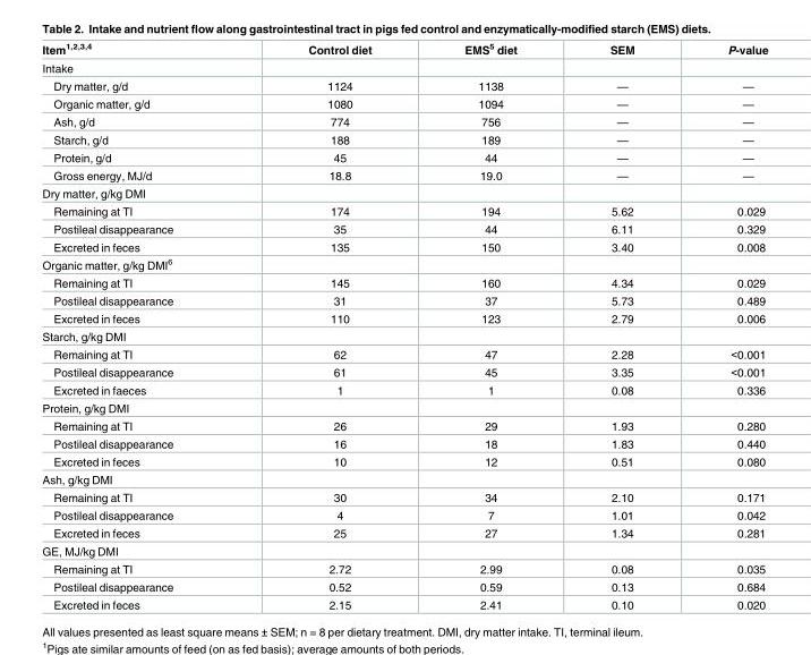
<table><thead><tr><td>Item<sup>1,2,3,4</sup></td><td>Control diet</td><td>EMS<sup>5</sup> diet</td><td>SEM</td><td>P-value</td></tr></thead><tbody><tr><td colspan="5">Intake</td></tr><tr><td>Dry matter, g/d</td><td>1124</td><td>1138</td><td>—</td><td>—</td></tr><tr><td>Organic matter, g/d</td><td>1080</td><td>1094</td><td>—</td><td>—</td></tr><tr><td>Ash, g/d</td><td>774</td><td>756</td><td>—</td><td>—</td></tr><tr><td>Starch, g/d</td><td>188</td><td>189</td><td>—</td><td>—</td></tr><tr><td>Protein, g/d</td><td>45</td><td>44</td><td>—</td><td>—</td></tr><tr><td>Gross energy, MJ/d</td><td>18.8</td><td>19.0</td><td>—</td><td>—</td></tr><tr><td colspan="5">Dry matter, g/kg DMI</td></tr><tr><td>Remaining at TI</td><td>174</td><td>194</td><td>5.62</td><td>0.029</td></tr><tr><td>Postileal disappearance</td><td>35</td><td>44</td><td>6.11</td><td>0.329</td></tr><tr><td>Excreted in feces</td><td>135</td><td>150</td><td>3.40</td><td>0.008</td></tr><tr><td colspan="5">Organic matter, g/kg DMI<sup>6</sup></td></tr><tr><td>Remaining at TI</td><td>145</td><td>160</td><td>4.34</td><td>0.029</td></tr><tr><td>Postileal disappearance</td><td>31</td><td>37</td><td>5.73</td><td>0.489</td></tr><tr><td>Excreted in feces</td><td>110</td><td>123</td><td>2.79</td><td>0.006</td></tr><tr><td colspan="5">Starch, g/kg DMI</td></tr><tr><td>Remaining at TI</td><td>62</td><td>47</td><td>2.28</td><td>&lt;0.001</td></tr><tr><td>Postileal disappearance</td><td>61</td><td>45</td><td>3.35</td><td>&lt;0.001</td></tr><tr><td>Excreted in faeces</td><td>1</td><td>1</td><td>0.08</td><td>0.336</td></tr><tr><td colspan="5">Protein, g/kg DMI</td></tr><tr><td>Remaining at TI</td><td>26</td><td>29</td><td>1.93</td><td>0.280</td></tr><tr><td>Postileal disappearance</td><td>16</td><td>18</td><td>1.83</td><td>0.440</td></tr><tr><td>Excreted in feces</td><td>10</td><td>12</td><td>0.51</td><td>0.080</td></tr><tr><td colspan="5">Ash, g/kg DMI</td></tr><tr><td>Remaining at TI</td><td>30</td><td>34</td><td>2.10</td><td>0.171</td></tr><tr><td>Postileal disappearance</td><td>4</td><td>7</td><td>1.01</td><td>0.042</td></tr><tr><td>Excreted in feces</td><td>25</td><td>27</td><td>1.34</td><td>0.281</td></tr><tr><td colspan="5">GE, MJ/kg DMI</td></tr><tr><td>Remaining at TI</td><td>2.72</td><td>2.99</td><td>0.08</td><td>0.035</td></tr><tr><td>Postileal disappearance</td><td>0.52</td><td>0.59</td><td>0.13</td><td>0.684</td></tr><tr><td>Excreted in feces</td><td>2.15</td><td>2.41</td><td>0.10</td><td>0.020</td></tr></tbody></table>